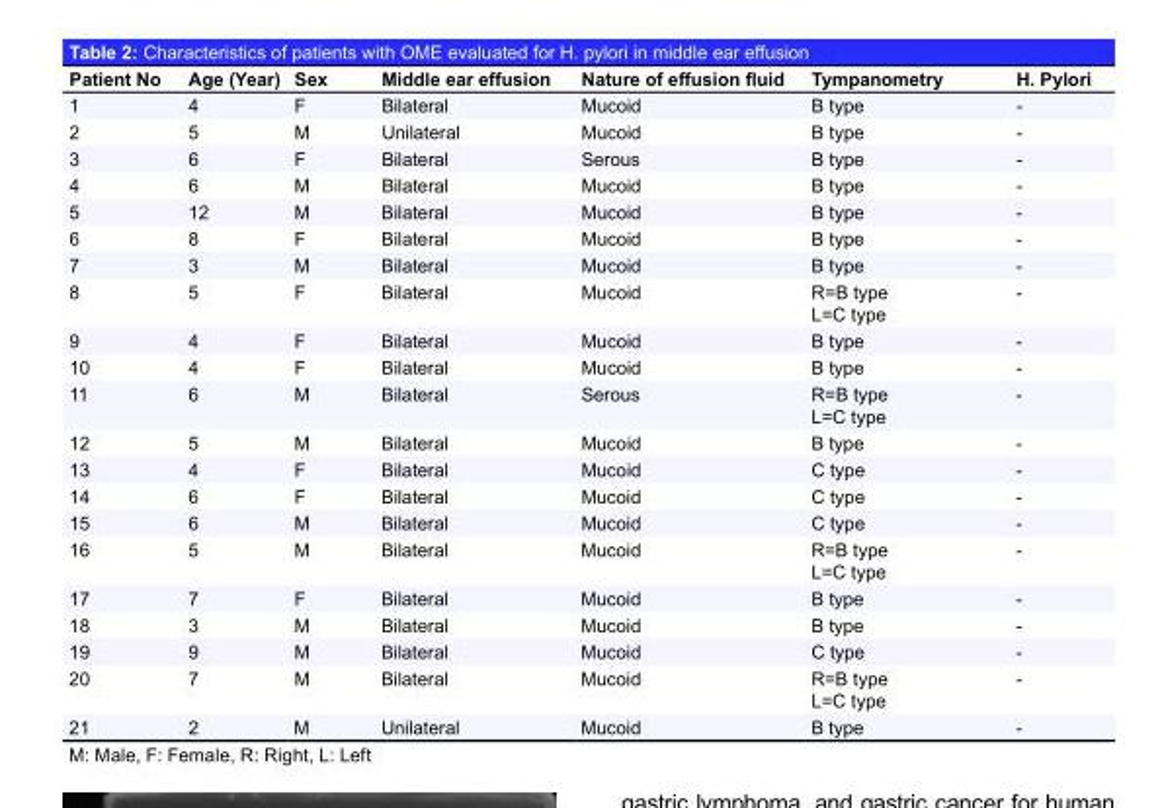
<table><thead><tr><td>Patient No</td><td>Age (Year)</td><td>Sex</td><td>Middle ear effusion</td><td>Nature of effusion fluid</td><td>Tympanometry</td><td>H. Pylori</td></tr></thead><tbody><tr><td>1</td><td>4</td><td>F</td><td>Bilateral</td><td>Mucoid</td><td>B type</td><td>-</td></tr><tr><td>2</td><td>5</td><td>M</td><td>Unilateral</td><td>Mucoid</td><td>B type</td><td>-</td></tr><tr><td>3</td><td>6</td><td>F</td><td>Bilateral</td><td>Serous</td><td>B type</td><td>-</td></tr><tr><td>4</td><td>6</td><td>M</td><td>Bilateral</td><td>Mucoid</td><td>B type</td><td>-</td></tr><tr><td>5</td><td>12</td><td>M</td><td>Bilateral</td><td>Mucoid</td><td>B type</td><td>-</td></tr><tr><td>6</td><td>8</td><td>F</td><td>Bilateral</td><td>Mucoid</td><td>B type</td><td>-</td></tr><tr><td>7</td><td>3</td><td>M</td><td>Bilateral</td><td>Mucoid</td><td>B type</td><td>-</td></tr><tr><td>8</td><td>5</td><td>F</td><td>Bilateral</td><td>Mucoid</td><td>R=B type L=C type</td><td>-</td></tr><tr><td>9</td><td>4</td><td>F</td><td>Bilateral</td><td>Mucoid</td><td>B type</td><td>-</td></tr><tr><td>10</td><td>4</td><td>F</td><td>Bilateral</td><td>Mucoid</td><td>B type</td><td>-</td></tr><tr><td>11</td><td>6</td><td>M</td><td>Bilateral</td><td>Serous</td><td>R=B type L=C type</td><td>-</td></tr><tr><td>12</td><td>5</td><td>M</td><td>Bilateral</td><td>Mucoid</td><td>B type</td><td>-</td></tr><tr><td>13</td><td>4</td><td>F</td><td>Bilateral</td><td>Mucoid</td><td>C type</td><td>-</td></tr><tr><td>14</td><td>6</td><td>F</td><td>Bilateral</td><td>Mucoid</td><td>C type</td><td>-</td></tr><tr><td>15</td><td>6</td><td>M</td><td>Bilateral</td><td>Mucoid</td><td>C type</td><td>-</td></tr><tr><td>16</td><td>5</td><td>M</td><td>Bilateral</td><td>Mucoid</td><td>R=B type L=C type</td><td>-</td></tr><tr><td>17</td><td>7</td><td>F</td><td>Bilateral</td><td>Mucoid</td><td>B type</td><td>-</td></tr><tr><td>18</td><td>3</td><td>M</td><td>Bilateral</td><td>Mucoid</td><td>B type</td><td>-</td></tr><tr><td>19</td><td>9</td><td>M</td><td>Bilateral</td><td>Mucoid</td><td>C type</td><td>-</td></tr><tr><td>20</td><td>7</td><td>M</td><td>Bilateral</td><td>Mucoid</td><td>R=B type L=C type</td><td>-</td></tr><tr><td>21</td><td>2</td><td>M</td><td>Unilateral</td><td>Mucoid</td><td>B type</td><td>-</td></tr></tbody></table>